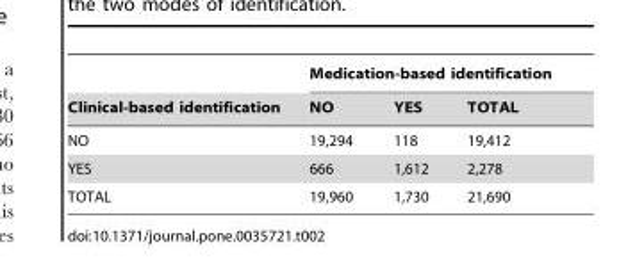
<table><thead><tr><td rowspan="2">Clinical-based identification</td><td colspan="3">Medication-based identification</td></tr><tr><td>NO</td><td>YES</td><td>TOTAL</td></tr></thead><tbody><tr><td>NO</td><td>19,294</td><td>118</td><td>19,412</td></tr><tr><td>YES</td><td>666</td><td>1,612</td><td>2,278</td></tr><tr><td>TOTAL</td><td>19,960</td><td>1,730</td><td>21,690</td></tr></tbody></table>